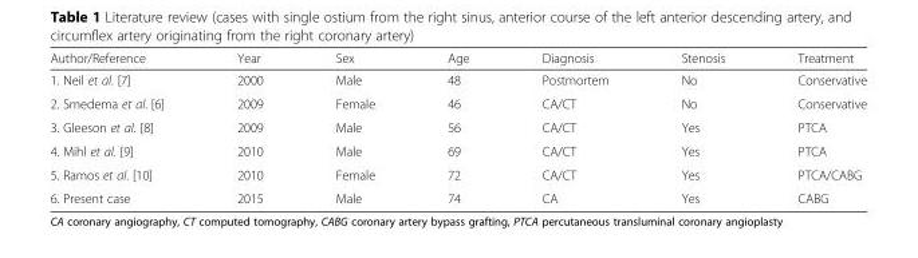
<table><thead><tr><td>Author/Reference</td><td>Year</td><td>Sex</td><td>Age</td><td>Diagnosis</td><td>Stenosis</td><td>Treatment</td></tr></thead><tbody><tr><td>1. Neil et al. [7]</td><td>2000</td><td>Male</td><td>48</td><td>Postmortem</td><td>No</td><td>Conservative</td></tr><tr><td>2. Smedema et al. [6]</td><td>2009</td><td>Female</td><td>46</td><td>CA/CT</td><td>No</td><td>Conservative</td></tr><tr><td>3. Gleeson et al. [8]</td><td>2009</td><td>Male</td><td>56</td><td>CA/CT</td><td>Yes</td><td>PTCA</td></tr><tr><td>4. Mihl et al. [9]</td><td>2010</td><td>Male</td><td>69</td><td>CA/CT</td><td>Yes</td><td>PTCA</td></tr><tr><td>5. Ramos et al. [10]</td><td>2010</td><td>Female</td><td>72</td><td>CA/CT</td><td>Yes</td><td>PTCA/CABG</td></tr><tr><td>6. Present case</td><td>2015</td><td>Male</td><td>74</td><td>CA</td><td>Yes</td><td>CABG</td></tr></tbody></table>